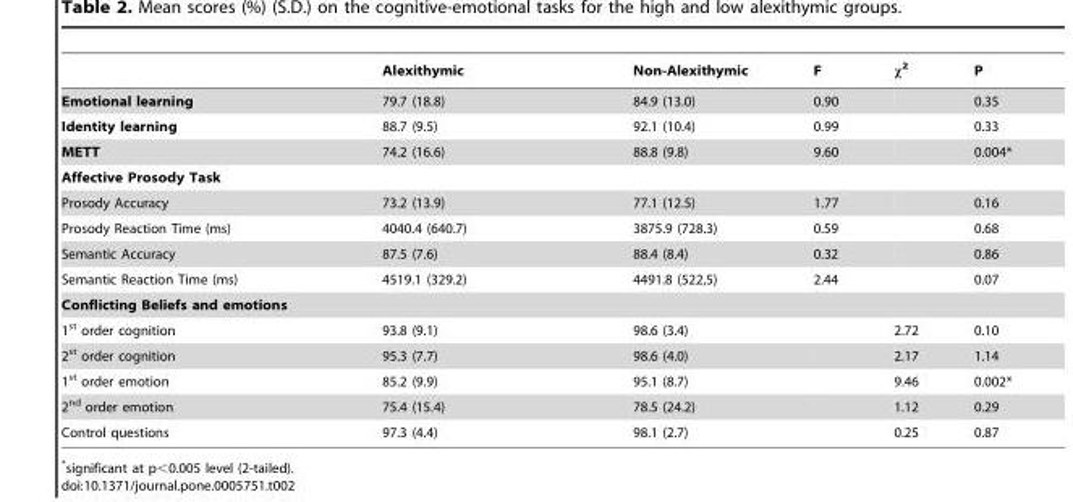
<table><thead><tr><td></td><td>Alexithymic</td><td>Non-Alexithymic</td><td>F</td><td>χ<sup>2</sup></td><td>P</td></tr></thead><tbody><tr><td>Emotional learning</td><td>79.7 (18.8)</td><td>84.9 (13.0)</td><td>0.90</td><td></td><td>0.35</td></tr><tr><td>Identity learning</td><td>88.7 (9.5)</td><td>92.1 (10.4)</td><td>0.99</td><td></td><td>0.33</td></tr><tr><td>METT</td><td>74.2 (16.6)</td><td>88.8 (9.8)</td><td>9.60</td><td></td><td>0.004*</td></tr><tr><td colspan="6">Affective Prosody Task</td></tr><tr><td>Prosody Accuracy</td><td>73.2 (13.9)</td><td>77.1 (12.5)</td><td>1.77</td><td></td><td>0.16</td></tr><tr><td>Prosody Reaction Time (ms)</td><td>4040.4 (640.7)</td><td>3875.9 (728.3)</td><td>0.59</td><td></td><td>0.68</td></tr><tr><td>Semantic Accuracy</td><td>87.5 (7.6)</td><td>88.4 (8.4)</td><td>0.32</td><td></td><td>0.86</td></tr><tr><td>Semantic Reaction Time (ms)</td><td>4519.1 (329.2)</td><td>4491.8 (522,5)</td><td>2.44</td><td></td><td>0.07</td></tr><tr><td colspan="6">Conflicting Beliefs and emotions</td></tr><tr><td>1<sup>st</sup> order cognition</td><td>93.8 (9.1)</td><td>98.6 (3.4)</td><td></td><td>2.72</td><td>0.10</td></tr><tr><td>2<sup>st</sup> order cognition</td><td>95.3 (7.7)</td><td>98.6 (4.0)</td><td></td><td>2.17</td><td>1.14</td></tr><tr><td>1<sup>st</sup> order emotion</td><td>85.2 (9.9)</td><td>95.1 (8.7)</td><td></td><td>9.46</td><td>0.002*</td></tr><tr><td>2<sup>nd</sup> order emotion</td><td>75.4 (15.4)</td><td>78.5 (24.2)</td><td></td><td>1.12</td><td>0.29</td></tr><tr><td>Control questions</td><td>97.3 (4.4)</td><td>98.1 (2.7)</td><td></td><td>0.25</td><td>0.87</td></tr></tbody></table>